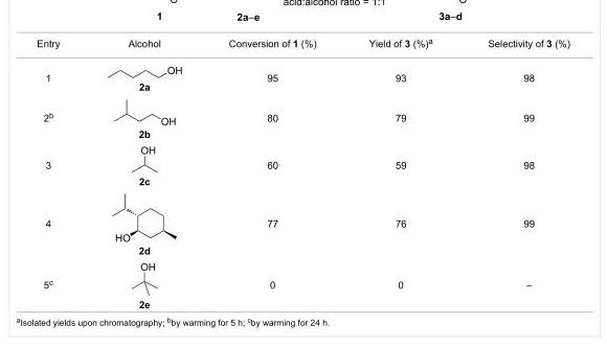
<table><tbody><tr><td>Entry</td><td>Alcohol</td><td>Conversion of 1 (%)</td><td>Yield of 3 (%)<sup>a</sup></td><td>Selectivity of 3 (%)</td></tr><tr><td>1</td><td>2a</td><td>95</td><td>93</td><td>98</td></tr><tr><td>2b</td><td>2b</td><td>80</td><td>79</td><td>99</td></tr><tr><td>3</td><td>2c</td><td>60</td><td>59</td><td>98</td></tr><tr><td>4</td><td>2d</td><td>77</td><td>76</td><td>99</td></tr><tr><td>5<sup>c</sup></td><td>2e</td><td>0</td><td>0</td><td>–</td></tr></tbody></table>